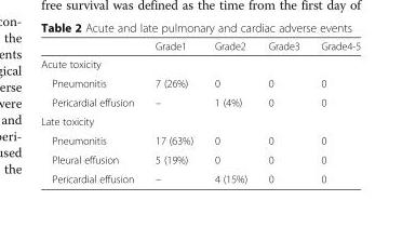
<table><thead><tr><td></td><td>Grade1</td><td>Grade2</td><td>Grade3</td><td>Grade4-5</td></tr></thead><tbody><tr><td colspan="5">Acute toxicity</td></tr><tr><td>Pneumonitis</td><td>7 (26%)</td><td>0</td><td>0</td><td>0</td></tr><tr><td>Pericardial effusion</td><td>–</td><td>1 (4%)</td><td>0</td><td>0</td></tr><tr><td colspan="5">Late toxicity</td></tr><tr><td>Pneumonitis</td><td>17 (63%)</td><td>0</td><td>0</td><td>0</td></tr><tr><td>Pleural effusion</td><td>5 (19%)</td><td>0</td><td>0</td><td>0</td></tr><tr><td>Pericardial effusion</td><td>–</td><td>4 (15%)</td><td>0</td><td>0</td></tr></tbody></table>